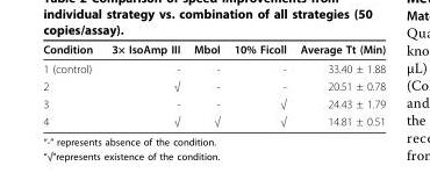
<table><thead><tr><td>Condition</td><td>3× IsoAmp III</td><td>MboI</td><td>10% Ficoll</td><td>Average Tt (Min)</td></tr></thead><tbody><tr><td>1 (control)</td><td>-</td><td>-</td><td>-</td><td>33.40 ± 1.88</td></tr><tr><td>2</td><td>√</td><td>-</td><td>-</td><td>20.51 ± 0.78</td></tr><tr><td>3</td><td>-</td><td>-</td><td>√</td><td>24.43 ± 1.79</td></tr><tr><td>4</td><td>√</td><td>√</td><td>√</td><td>14.81 ± 0.51</td></tr></tbody></table>